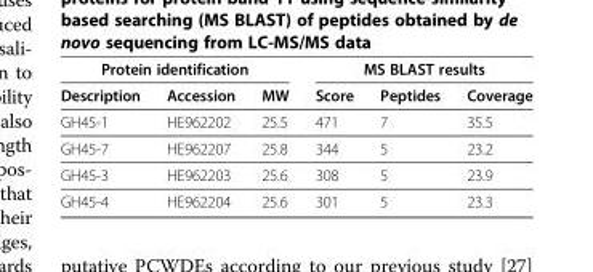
<table><thead><tr><td colspan="3">Protein identification</td><td colspan="3">MS BLAST results</td></tr><tr><td>Description</td><td>Accession</td><td>MW</td><td>Score</td><td>Peptides</td><td>Coverage</td></tr></thead><tbody><tr><td>GH45-1</td><td>HE962202</td><td>25.5</td><td>471</td><td>7</td><td>35.5</td></tr><tr><td>GH45-7</td><td>HE962207</td><td>25.8</td><td>344</td><td>5</td><td>23.2</td></tr><tr><td>GH45-3</td><td>HE962203</td><td>25.6</td><td>308</td><td>5</td><td>23.9</td></tr><tr><td>GH45-4</td><td>HE962204</td><td>25.6</td><td>301</td><td>5</td><td>23.3</td></tr></tbody></table>